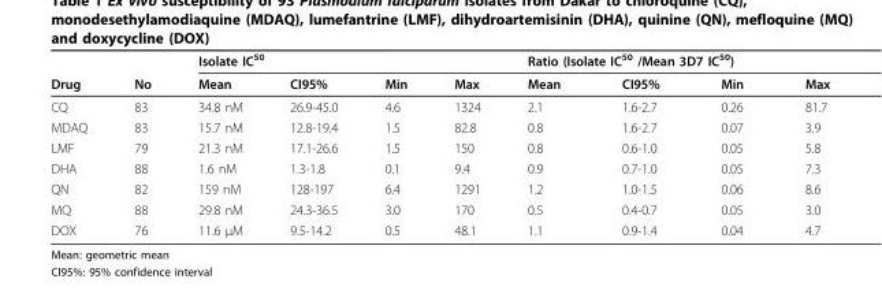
<table><thead><tr><td rowspan="2">Drug</td><td rowspan="2">No</td><td colspan="4">Isolate IC<sup>50</sup></td><td colspan="4">Ratio (Isolate IC<sup>50</sup> /Mean 3D7 IC<sup>50</sup>)</td></tr><tr><td>Mean</td><td>CI95%</td><td>Min</td><td>Max</td><td>Mean</td><td>CI95%</td><td>Min</td><td>Max</td></tr></thead><tbody><tr><td>CQ</td><td>83</td><td>34.8 nM</td><td>26.9-45.0</td><td>4.6</td><td>1324</td><td>2.1</td><td>1.6-2.7</td><td>0.26</td><td>81.7</td></tr><tr><td>MDAQ</td><td>83</td><td>15.7 nM</td><td>12.8-19.4</td><td>1.5</td><td>82.8</td><td>0.8</td><td>1.6-2.7</td><td>0.07</td><td>3.9</td></tr><tr><td>LMF</td><td>79</td><td>21.3 nM</td><td>17.1-26.6</td><td>1.5</td><td>150</td><td>0.8</td><td>0.6-1.0</td><td>0.05</td><td>5.8</td></tr><tr><td>DHA</td><td>88</td><td>1.6 nM</td><td>1.3-1.8</td><td>0.1</td><td>9.4</td><td>0.9</td><td>0.7-1.0</td><td>0.05</td><td>7.3</td></tr><tr><td>QN</td><td>82</td><td>159 nM</td><td>128-197</td><td>6.4</td><td>1291</td><td>1.2</td><td>1.0-1.5</td><td>0.06</td><td>8.6</td></tr><tr><td>MQ</td><td>88</td><td>29.8 nM</td><td>24.3-36.5</td><td>3.0</td><td>170</td><td>0.5</td><td>0.4-0.7</td><td>0.05</td><td>3.0</td></tr><tr><td>DOX</td><td>76</td><td>11.6 μM</td><td>9.5-14.2</td><td>0.5</td><td>48.1</td><td>1.1</td><td>0.9-1.4</td><td>0.04</td><td>4.7</td></tr></tbody></table>